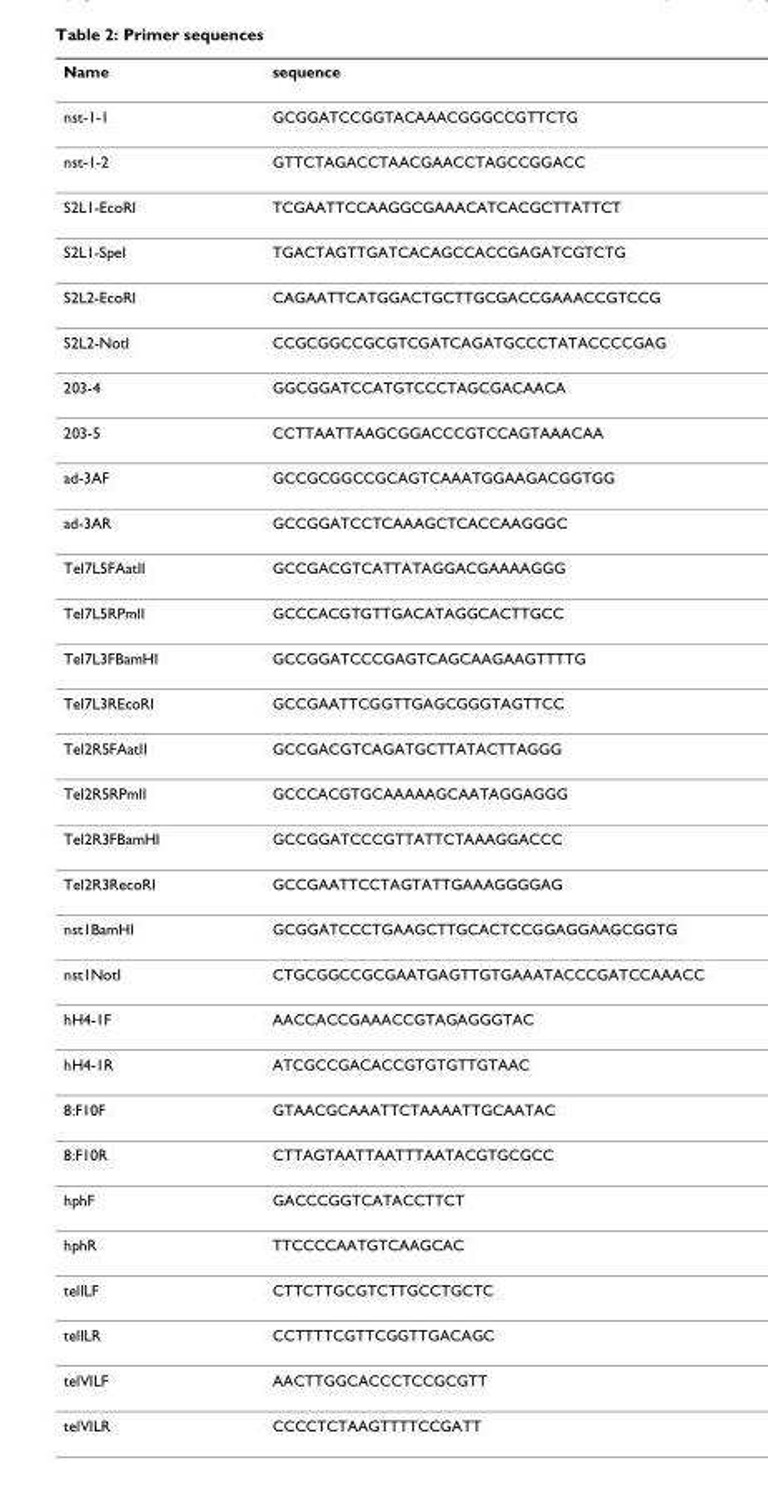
<table><thead><tr><td>Name</td><td>sequence</td></tr></thead><tbody><tr><td>nst-1-1</td><td>GCGGATCCGGTACAAACGGGCCGTTCTG</td></tr><tr><td>nst-1-2</td><td>GTTCTAGACCTAACGAACCTAGCCGGACC</td></tr><tr><td>S2L1-EcoRI</td><td>TCGAATTCCAAGGCGAAACATCACGCTTATTCT</td></tr><tr><td>S2L1-SpeI</td><td>TGACTAGTTGATCACAGCCACCGAGATCGTCTG</td></tr><tr><td>S2L2-EcoRI</td><td>CAGAATTCATGGACTGCTTGCGACCGAAACCGTCCG</td></tr><tr><td>S2L2-NotI</td><td>CCGCGGCCGCGTCGATCAGATGCCCTATACCCCGAG</td></tr><tr><td>203-4</td><td>GGCGGATCCATGTCCCTAGCGACAACA</td></tr><tr><td>203-5</td><td>CCTTAATTAAGCGGACCCGTCCAGTAAACAA</td></tr><tr><td>ad-3AF</td><td>GCCGCGGCCGCAGTCAAATGGAAGACGGTGG</td></tr><tr><td>ad-3AR</td><td>GCCGGATCCTCAAAGCTCACCAAGGGC</td></tr><tr><td>Tel7L5FAatII</td><td>GCCGACGTCATTATAGGACGAAAAGGG</td></tr><tr><td>Tel7L5RPmlI</td><td>GCCCACGTGTTGACATAGGCACTTGCC</td></tr><tr><td>Tel7L3FBamHI</td><td>GCCGGATCCCGAGTCAGCAAGAAGTTTTG</td></tr><tr><td>Tel7L3REcoRI</td><td>GCCGAATTCGGTTGAGCGGGTAGTTCC</td></tr><tr><td>Tel2R5FAatII</td><td>GCCGACGTCAGATGCTTATACTTAGGG</td></tr><tr><td>Tel2R5RPmlI</td><td>GCCCACGTGCAAAAAGCAATAGGAGGG</td></tr><tr><td>Tel2R3FBamHI</td><td>GCCGGATCCCGTTATTCTAAAGGACCC</td></tr><tr><td>Tel2R3RecoRI</td><td>GCCGAATTCCTAGTATTGAAAGGGGAG</td></tr><tr><td>nst1BamHI</td><td>GCGGATCCCTGAAGCTTGCACTCCGGAGGAAGCGGTG</td></tr><tr><td>nst1NotI</td><td>CTGCGGCCGCGAATGAGTTGTGAAATACCCGATCCAAACC</td></tr><tr><td>hH4-1F</td><td>AACCACCGAAACCGTAGAGGGTAC</td></tr><tr><td>hH4-1R</td><td>ATCGCCGACACCGTGTGTTGTAAC</td></tr><tr><td>8:F10F</td><td>GTAACGCAAATTCTAAAATTGCAATAC</td></tr><tr><td>8:F10R</td><td>CTTAGTAATTAATTTAATACGTGCGCC</td></tr><tr><td>hphF</td><td>GACCCGGTCATACCTTCT</td></tr><tr><td>hphR</td><td>TTCCCCAATGTCAAGCAC</td></tr><tr><td>telILF</td><td>CTTCTTGCGTCTTGCCTGCTC</td></tr><tr><td>telILR</td><td>CCTTTTCGTTCGGTTGACAGC</td></tr><tr><td>telVILF</td><td>AACTTGGCACCCTCCGCGTT</td></tr><tr><td>telVILR</td><td>CCCCTCTAAGTTTTCCGATT</td></tr></tbody></table>